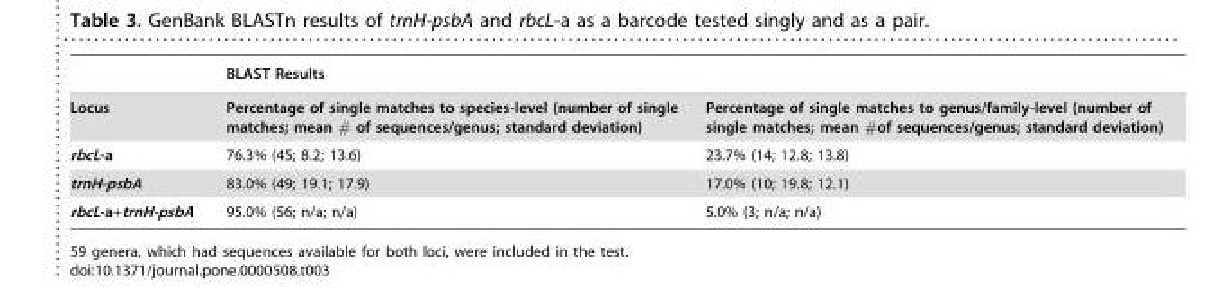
<table><thead><tr><td rowspan="2">Locus</td><td colspan="2">BLAST Results</td></tr><tr><td>Percentage of single matches to species-level (number of single matches; mean # of sequences/genus; standard deviation)</td><td>Percentage of single matches to genus/family-level (number of single matches; mean #of sequences/genus; standard deviation)</td></tr></thead><tbody><tr><td>rbcL-a</td><td>76.3% (45; 8.2; 13.6)</td><td>23.7% (14; 12.8; 13.8)</td></tr><tr><td>trnH-psbA</td><td>83.0% (49; 19.1; 17.9)</td><td>17.0% (10; 19.8; 12.1)</td></tr><tr><td>rbcL-a+trnH-psbA</td><td>95.0% (56; n/a; n/a)</td><td>5.0% (3; n/a; n/a)</td></tr></tbody></table>